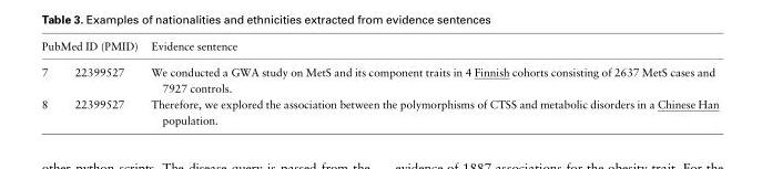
<table><thead><tr><td colspan="2">PubMed ID (PMID)</td><td rowspan="2">Evidence sentence We conducted a GWA study on MetS and its component traits in 4 Finnish cohorts consisting of 2637 MetS cases and 7927 controls.</td></tr><tr><td>7</td><td>22399527</td></tr></thead><tbody><tr><td>8</td><td>22399527</td><td>Therefore, we explored the association between the polymorphisms of CTSS and metabolic disorders in a Chinese Han population.</td></tr></tbody></table>